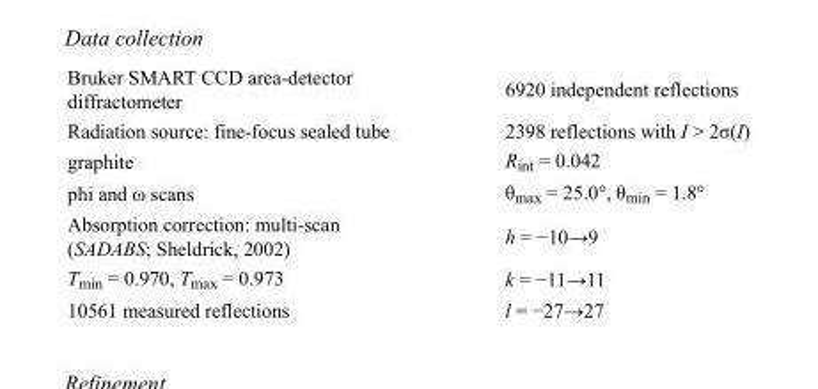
<table><tbody><tr><td>Bruker SMART CCD area-detector diffractometer</td><td>6920 independent reflections</td></tr><tr><td>Radiation source: fine-focus sealed tube</td><td>2398 reflections with I &gt; 2σ(I)</td></tr><tr><td>graphite</td><td>R<sub>int</sub> = 0.042</td></tr><tr><td>phi and ω scans</td><td>θ<sub>max</sub> = 25.0°, θ<sub>min</sub> = 1.8°</td></tr><tr><td>Absorption correction: multi-scan (SADABS; Sheldrick, 2002)</td><td>h = −10→9</td></tr><tr><td>T<sub>min</sub> = 0.970, T<sub>max</sub> = 0.973</td><td>k = −11→11</td></tr><tr><td>10561 measured reflections</td><td>l = −27→27</td></tr></tbody></table>